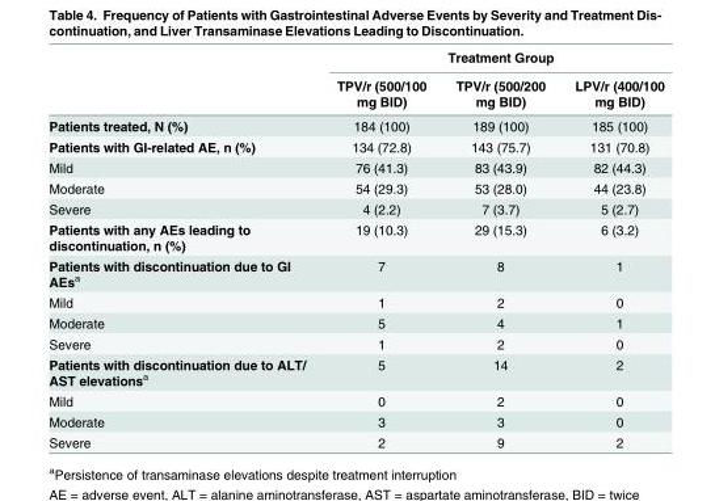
<table><thead><tr><td rowspan="2"></td><td colspan="3">Treatment Group</td></tr><tr><td>TPV/r (500/100 mg BID)</td><td>TPV/r (500/200 mg BID)</td><td>LPV/r (400/100 mg BID)</td></tr></thead><tbody><tr><td>Patients treated, N (%)</td><td>184 (100)</td><td>189 (100)</td><td>185 (100)</td></tr><tr><td>Patients with GI-related AE, n (%)</td><td>134 (72.8)</td><td>143 (75.7)</td><td>131 (70.8)</td></tr><tr><td>Mild</td><td>76 (41.3)</td><td>83 (43.9)</td><td>82 (44.3)</td></tr><tr><td>Moderate</td><td>54 (29.3)</td><td>53 (28.0)</td><td>44 (23.8)</td></tr><tr><td>Severe</td><td>4 (2.2)</td><td>7 (3.7)</td><td>5 (2.7)</td></tr><tr><td>Patients with any AEs leading to discontinuation, n (%)</td><td>19 (10.3)</td><td>29 (15.3)</td><td>6 (3.2)</td></tr><tr><td>Patients with discontinuation due to GI AEs<sup>a</sup></td><td>7</td><td>8</td><td>1</td></tr><tr><td>Mild</td><td>1</td><td>2</td><td>0</td></tr><tr><td>Moderate</td><td>5</td><td>4</td><td>1</td></tr><tr><td>Severe</td><td>1</td><td>2</td><td>0</td></tr><tr><td>Patients with discontinuation due to ALT/ AST elevations<sup>a</sup></td><td>5</td><td>14</td><td>2</td></tr><tr><td>Mild</td><td>0</td><td>2</td><td>0</td></tr><tr><td>Moderate</td><td>3</td><td>3</td><td>0</td></tr><tr><td>Severe</td><td>2</td><td>9</td><td>2</td></tr></tbody></table>